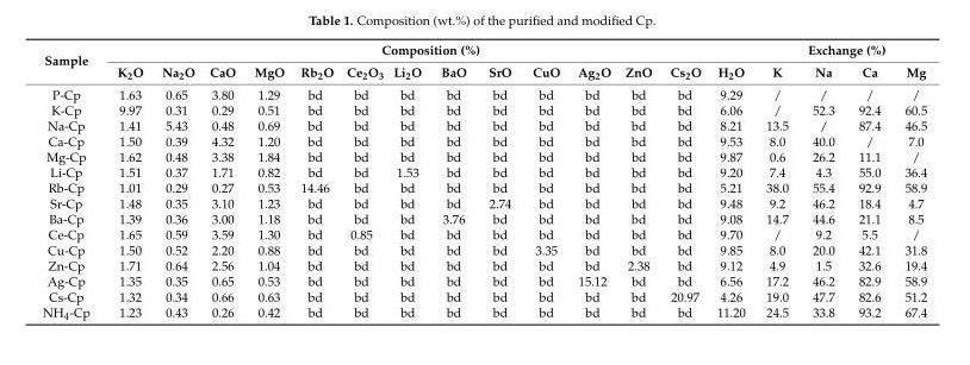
<table><thead><tr><td rowspan="2">Sample</td><td colspan="14">Composition (%)</td><td colspan="4">Exchange (%)</td></tr><tr><td>K<sub>2</sub>O</td><td>Na<sub>2</sub>O</td><td>CaO</td><td>MgO</td><td>Rb<sub>2</sub>O</td><td>Ce<sub>2</sub>O<sub>3</sub></td><td>Li<sub>2</sub>O</td><td>BaO</td><td>SrO</td><td>CuO</td><td>Ag<sub>2</sub>O</td><td>ZnO</td><td>Cs<sub>2</sub>O</td><td>H<sub>2</sub>O</td><td>K</td><td>Na</td><td>Ca</td><td>Mg</td></tr></thead><tbody><tr><td>P-Cp</td><td>1.63</td><td>0.65</td><td>3.80</td><td>1.29</td><td>bd</td><td>bd</td><td>bd</td><td>bd</td><td>bd</td><td>bd</td><td>bd</td><td>bd</td><td>bd</td><td>9.29</td><td>/</td><td>/</td><td>/</td><td>/</td></tr><tr><td>K-Cp</td><td>9.97</td><td>0.31</td><td>0.29</td><td>0.51</td><td>bd</td><td>bd</td><td>bd</td><td>bd</td><td>bd</td><td>bd</td><td>bd</td><td>bd</td><td>bd</td><td>6.06</td><td>/</td><td>52.3</td><td>92.4</td><td>60.5</td></tr><tr><td>Na-Cp</td><td>1.41</td><td>5.43</td><td>0.48</td><td>0.69</td><td>bd</td><td>bd</td><td>bd</td><td>bd</td><td>bd</td><td>bd</td><td>bd</td><td>bd</td><td>bd</td><td>8.21</td><td>13.5</td><td>/</td><td>87.4</td><td>46.5</td></tr><tr><td>Ca-Cp</td><td>1.50</td><td>0.39</td><td>4.32</td><td>1.20</td><td>bd</td><td>bd</td><td>bd</td><td>bd</td><td>bd</td><td>bd</td><td>bd</td><td>bd</td><td>bd</td><td>9.53</td><td>8.0</td><td>40.0</td><td>/</td><td>7.0</td></tr><tr><td>Mg-Cp</td><td>1.62</td><td>0.48</td><td>3.38</td><td>1.84</td><td>bd</td><td>bd</td><td>bd</td><td>bd</td><td>bd</td><td>bd</td><td>bd</td><td>bd</td><td>bd</td><td>9.87</td><td>0.6</td><td>26.2</td><td>11.1</td><td>/</td></tr><tr><td>Li-Cp</td><td>1.51</td><td>0.37</td><td>1.71</td><td>0.82</td><td>bd</td><td>bd</td><td>1.53</td><td>bd</td><td>bd</td><td>bd</td><td>bd</td><td>bd</td><td>bd</td><td>9.20</td><td>7.4</td><td>4.3</td><td>55.0</td><td>36.4</td></tr><tr><td>Rb-Cp</td><td>1.01</td><td>0.29</td><td>0.27</td><td>0.53</td><td>14.46</td><td>bd</td><td>bd</td><td>bd</td><td>bd</td><td>bd</td><td>bd</td><td>bd</td><td>bd</td><td>5.21</td><td>38.0</td><td>55.4</td><td>92.9</td><td>58.9</td></tr><tr><td>Sr-Cp</td><td>1.48</td><td>0.35</td><td>3.10</td><td>1.23</td><td>bd</td><td>bd</td><td>bd</td><td>bd</td><td>2.74</td><td>bd</td><td>bd</td><td>bd</td><td>bd</td><td>9.48</td><td>9.2</td><td>46.2</td><td>18.4</td><td>4.7</td></tr><tr><td>Ba-Cp</td><td>1.39</td><td>0.36</td><td>3.00</td><td>1.18</td><td>bd</td><td>bd</td><td>bd</td><td>3.76</td><td>bd</td><td>bd</td><td>bd</td><td>bd</td><td>bd</td><td>9.08</td><td>14.7</td><td>44.6</td><td>21.1</td><td>8.5</td></tr><tr><td>Ce-Cp</td><td>1.65</td><td>0.59</td><td>3.59</td><td>1.30</td><td>bd</td><td>0.85</td><td>bd</td><td>bd</td><td>bd</td><td>bd</td><td>bd</td><td>bd</td><td>bd</td><td>9.70</td><td>/</td><td>9.2</td><td>5.5</td><td>/</td></tr><tr><td>Cu-Cp</td><td>1.50</td><td>0.52</td><td>2.20</td><td>0.88</td><td>bd</td><td>bd</td><td>bd</td><td>bd</td><td>bd</td><td>3.35</td><td>bd</td><td>bd</td><td>bd</td><td>9.85</td><td>8.0</td><td>20.0</td><td>42.1</td><td>31.8</td></tr><tr><td>Zn-Cp</td><td>1.71</td><td>0.64</td><td>2.56</td><td>1.04</td><td>bd</td><td>bd</td><td>bd</td><td>bd</td><td>bd</td><td>bd</td><td>bd</td><td>2.38</td><td>bd</td><td>9.12</td><td>4.9</td><td>1.5</td><td>32.6</td><td>19.4</td></tr><tr><td>Ag-Cp</td><td>1.35</td><td>0.35</td><td>0.65</td><td>0.53</td><td>bd</td><td>bd</td><td>bd</td><td>bd</td><td>bd</td><td>bd</td><td>15.12</td><td>bd</td><td>bd</td><td>6.56</td><td>17.2</td><td>46.2</td><td>82.9</td><td>58.9</td></tr><tr><td>Cs-Cp</td><td>1.32</td><td>0.34</td><td>0.66</td><td>0.63</td><td>bd</td><td>bd</td><td>bd</td><td>bd</td><td>bd</td><td>bd</td><td>bd</td><td>bd</td><td>20.97</td><td>4.26</td><td>19.0</td><td>47.7</td><td>82.6</td><td>51.2</td></tr><tr><td>NH<sub>4</sub>-Cp</td><td>1.23</td><td>0.43</td><td>0.26</td><td>0.42</td><td>bd</td><td>bd</td><td>bd</td><td>bd</td><td>bd</td><td>bd</td><td>bd</td><td>bd</td><td>bd</td><td>11.20</td><td>24.5</td><td>33.8</td><td>93.2</td><td>67.4</td></tr></tbody></table>